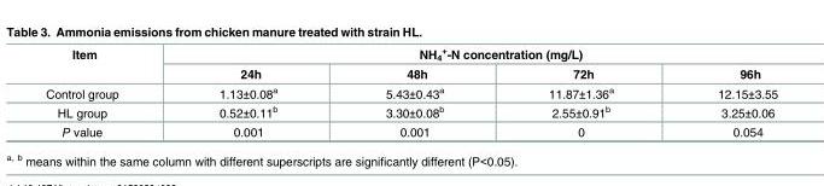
<table><thead><tr><td rowspan="2">Item</td><td colspan="4">NH<sub>4</sub> <sup>+</sup>-N concentration (mg/L)</td></tr><tr><td>24h</td><td>48h</td><td>72h</td><td>96h</td></tr></thead><tbody><tr><td>Control group</td><td>1.13±0.08<sup>a</sup></td><td>5.43±0.43<sup>a</sup></td><td>11.87±1.36<sup>a</sup></td><td>12.15±3.55</td></tr><tr><td>HL group</td><td>0.52±0.11<sup>b</sup></td><td>3.30±0.08<sup>b</sup></td><td>2.55±0.91<sup>b</sup></td><td>3.25±0.06</td></tr><tr><td>P value</td><td>0.001</td><td>0.001</td><td>0</td><td>0.054</td></tr></tbody></table>